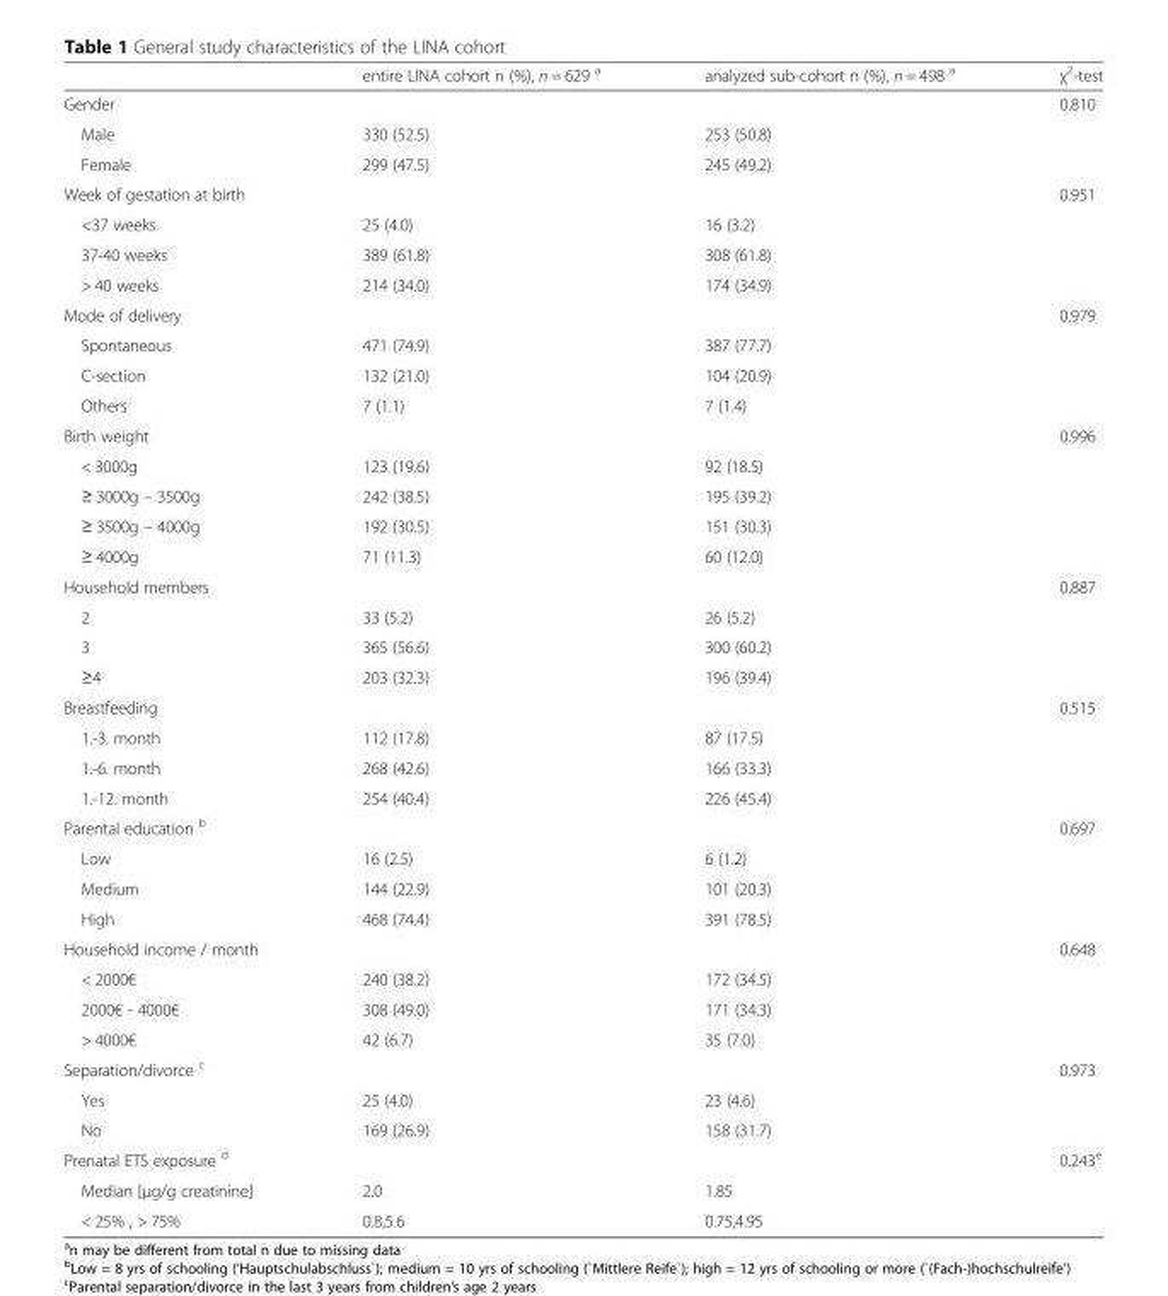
<table><thead><tr><td></td><td>entire LINA cohort n (%), n = 629 <sup>a</sup></td><td>analyzed sub-cohort n (%), n = 498 <sup>a</sup></td><td>χ<sup>2</sup>-test</td></tr></thead><tbody><tr><td>Gender</td><td></td><td></td><td>0.810</td></tr><tr><td>Male</td><td>330 (52.5)</td><td>253 (50.8)</td><td></td></tr><tr><td>Female</td><td>299 (47.5)</td><td>245 (49.2)</td><td></td></tr><tr><td>Week of gestation at birth</td><td></td><td></td><td>0.951</td></tr><tr><td>&lt;37 weeks</td><td>25 (4.0)</td><td>16 (3.2)</td><td></td></tr><tr><td>37-40 weeks</td><td>389 (61.8)</td><td>308 (61.8)</td><td></td></tr><tr><td>&gt; 40 weeks</td><td>214 (34.0)</td><td>174 (34.9)</td><td></td></tr><tr><td>Mode of delivery</td><td></td><td></td><td>0.979</td></tr><tr><td>Spontaneous</td><td>471 (74.9)</td><td>387 (77.7)</td><td></td></tr><tr><td>C-section</td><td>132 (21.0)</td><td>104 (20.9)</td><td></td></tr><tr><td>Others</td><td>7 (1.1)</td><td>7 (1.4)</td><td></td></tr><tr><td>Birth weight</td><td></td><td></td><td>0.996</td></tr><tr><td>&lt; 3000g</td><td>123 (19.6)</td><td>92 (18.5)</td><td></td></tr><tr><td>≥ 3000g – 3500g</td><td>242 (38.5)</td><td>195 (39.2)</td><td></td></tr><tr><td>≥ 3500g – 4000g</td><td>192 (30.5)</td><td>151 (30.3)</td><td></td></tr><tr><td>≥ 4000g</td><td>71 (11.3)</td><td>60 (12.0)</td><td></td></tr><tr><td>Household members</td><td></td><td></td><td>0.887</td></tr><tr><td>2</td><td>33 (5.2)</td><td>26 (5.2)</td><td></td></tr><tr><td>3</td><td>365 (56.6)</td><td>300 (60.2)</td><td></td></tr><tr><td>≥4</td><td>203 (32.3)</td><td>196 (39.4)</td><td></td></tr><tr><td>Breastfeeding</td><td></td><td></td><td>0.515</td></tr><tr><td>1.-3. month</td><td>112 (17.8)</td><td>87 (17.5)</td><td></td></tr><tr><td>1.-6. month</td><td>268 (42.6)</td><td>166 (33.3)</td><td></td></tr><tr><td>1.-12. month</td><td>254 (40.4)</td><td>226 (45.4)</td><td></td></tr><tr><td>Parental education <sup>b</sup></td><td></td><td></td><td>0.697</td></tr><tr><td>Low</td><td>16 (2.5)</td><td>6 (1.2)</td><td></td></tr><tr><td>Medium</td><td>144 (22.9)</td><td>101 (20.3)</td><td></td></tr><tr><td>High</td><td>468 (74.4)</td><td>391 (78.5)</td><td></td></tr><tr><td>Household income / month</td><td></td><td></td><td>0.648</td></tr><tr><td>&lt; 2000€</td><td>240 (38.2)</td><td>172 (34.5)</td><td></td></tr><tr><td>2000€ - 4000€</td><td>308 (49.0)</td><td>171 (34.3)</td><td></td></tr><tr><td>&gt; 4000€</td><td>42 (6.7)</td><td>35 (7.0)</td><td></td></tr><tr><td>Separation/divorce <sup>c</sup></td><td></td><td></td><td>0.973</td></tr><tr><td>Yes</td><td>25 (4.0)</td><td>23 (4.6)</td><td></td></tr><tr><td>No</td><td>169 (26.9)</td><td>158 (31.7)</td><td></td></tr><tr><td>Prenatal ETS exposure <sup>d</sup></td><td></td><td></td><td>0.243<sup>e</sup></td></tr><tr><td>Median [μg/g creatinine]</td><td>2.0</td><td>1.85</td><td></td></tr><tr><td>&lt; 25% , &gt; 75%</td><td>0.8,5.6</td><td>0.75,4.95</td><td></td></tr></tbody></table>